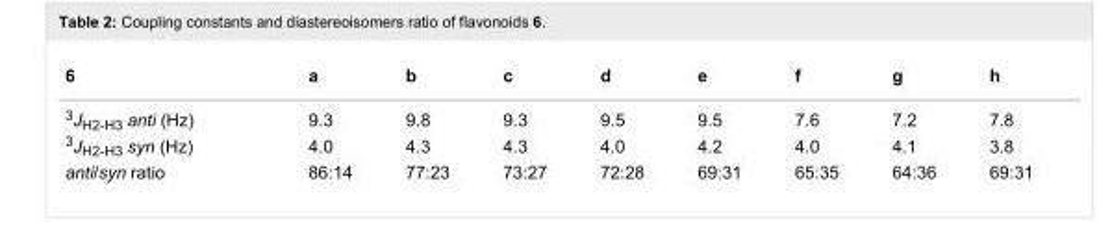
<table><tbody><tr><td>6</td><td>a</td><td>b</td><td>c</td><td>d</td><td>e</td><td>f</td><td>g</td><td>h</td></tr><tr><td><sup>3</sup>J<sub>H2-H3</sub> anti (Hz)</td><td>9.3</td><td>9.8</td><td>9.3</td><td>9.5</td><td>9.5</td><td>7.6</td><td>7.2</td><td>7.8</td></tr><tr><td><sup>3</sup>J<sub>H2-H3</sub> syn (Hz)</td><td>4.0</td><td>4.3</td><td>4.3</td><td>4.0</td><td>4.2</td><td>4.0</td><td>4.1</td><td>3.8</td></tr><tr><td>anti/syn ratio</td><td>86:14</td><td>77:23</td><td>73:27</td><td>72:28</td><td>69:31</td><td>65:35</td><td>64:36</td><td>69:31</td></tr></tbody></table>